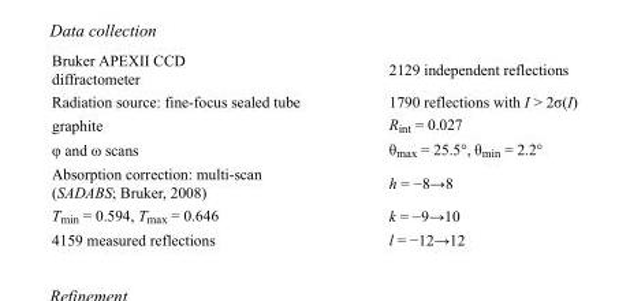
<table><tbody><tr><td>Bruker APEXII CCD diffractometer</td><td>2129 independent reflections</td></tr><tr><td>Radiation source: fine-focus sealed tube</td><td>1790 reflections with I &gt; 2σ(I)</td></tr><tr><td>graphite</td><td>R<sub>int</sub> = 0.027</td></tr><tr><td>φ and ω scans</td><td>θ<sub>max</sub> = 25.5°, θ<sub>min</sub> = 2.2°</td></tr><tr><td>Absorption correction: multi-scan (SADABS; Bruker, 2008)</td><td>h = −8→8</td></tr><tr><td>T<sub>min</sub> = 0.594, T<sub>max</sub> = 0.646</td><td>k = −9→10</td></tr><tr><td>4159 measured reflections</td><td>l = −12→12</td></tr></tbody></table>